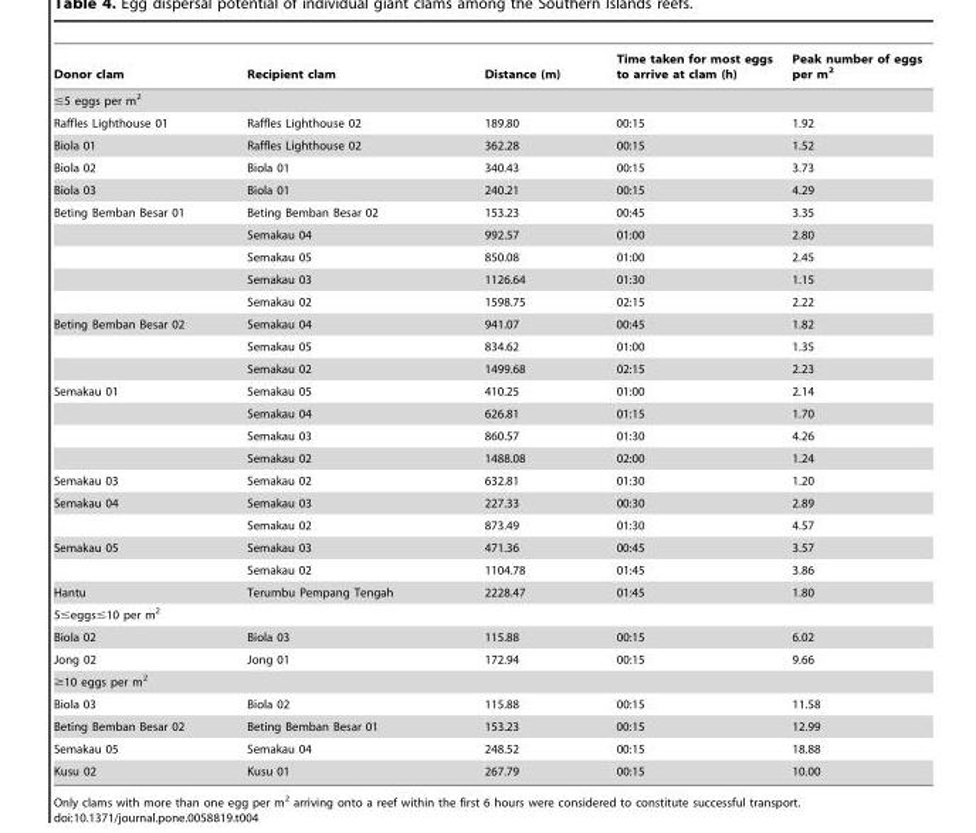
<table><thead><tr><td>Donor clam</td><td>Recipient clam</td><td>Distance (m)</td><td>Time taken for most eggs to arrive at clam (h)</td><td>Peak number of eggs per m<sup>2</sup></td></tr></thead><tbody><tr><td colspan="5">≤5 eggs per m<sup>2</sup></td></tr><tr><td>Raffles Lighthouse 01</td><td>Raffles Lighthouse 02</td><td>189.80</td><td>00:15</td><td>1.92</td></tr><tr><td>Biola 01</td><td>Raffles Lighthouse 02</td><td>362.28</td><td>00:15</td><td>1.52</td></tr><tr><td>Biola 02</td><td>Biola 01</td><td>340.43</td><td>00:15</td><td>3.73</td></tr><tr><td>Biola 03</td><td>Biola 01</td><td>240.21</td><td>00:15</td><td>4.29</td></tr><tr><td rowspan="5">Beting Bemban Besar 01</td><td>Beting Bemban Besar 02</td><td>153.23</td><td>00:45</td><td>3.35</td></tr><tr><td>Semakau 04</td><td>992.57</td><td>01:00</td><td>2.80</td></tr><tr><td>Semakau 05</td><td>850.08</td><td>01:00</td><td>2.45</td></tr><tr><td>Semakau 03</td><td>1126.64</td><td>01:30</td><td>1.15</td></tr><tr><td>Semakau 02</td><td>1598.75</td><td>02:15</td><td>2.22</td></tr><tr><td rowspan="3">Beting Bemban Besar 02</td><td>Semakau 04</td><td>941.07</td><td>00:45</td><td>1.82</td></tr><tr><td>Semakau 05</td><td>834.62</td><td>01:00</td><td>1.35</td></tr><tr><td>Semakau 02</td><td>1499.68</td><td>02:15</td><td>2.23</td></tr><tr><td rowspan="4">Semakau 01</td><td>Semakau 05</td><td>410.25</td><td>01:00</td><td>2.14</td></tr><tr><td>Semakau 04</td><td>626.81</td><td>01:15</td><td>1.70</td></tr><tr><td>Semakau 03</td><td>860.57</td><td>01:30</td><td>4.26</td></tr><tr><td>Semakau 02</td><td>1488.08</td><td>02:00</td><td>1.24</td></tr><tr><td>Semakau 03</td><td>Semakau 02</td><td>632.81</td><td>01:30</td><td>1.20</td></tr><tr><td rowspan="2">Semakau 04</td><td>Semakau 03</td><td>227.33</td><td>00:30</td><td>2.89</td></tr><tr><td>Semakau 02</td><td>873.49</td><td>01:30</td><td>4.57</td></tr><tr><td rowspan="2">Semakau 05</td><td>Semakau 03</td><td>471.36</td><td>00:45</td><td>3.57</td></tr><tr><td>Semakau 02</td><td>1104.78</td><td>01:45</td><td>3.86</td></tr><tr><td>Hantu</td><td>Terumbu Pempang Tengah</td><td>2228.47</td><td>01:45</td><td>1.80</td></tr><tr><td colspan="5">5≤eggs≤10 per m<sup>2</sup></td></tr><tr><td>Biola 02</td><td>Biola 03</td><td>115.88</td><td>00:15</td><td>6.02</td></tr><tr><td>Jong 02</td><td>Jong 01</td><td>172.94</td><td>00:15</td><td>9.66</td></tr><tr><td colspan="5">≥10 eggs per m<sup>2</sup></td></tr><tr><td>Biola 03</td><td>Biola 02</td><td>115.88</td><td>00:15</td><td>11.58</td></tr><tr><td>Beting Bemban Besar 02</td><td>Beting Bemban Besar 01</td><td>153.23</td><td>00:15</td><td>12.99</td></tr><tr><td>Semakau 05</td><td>Semakau 04</td><td>248.52</td><td>00:15</td><td>18.88</td></tr><tr><td>Kusu 02</td><td>Kusu 01</td><td>267.79</td><td>00:15</td><td>10.00</td></tr></tbody></table>